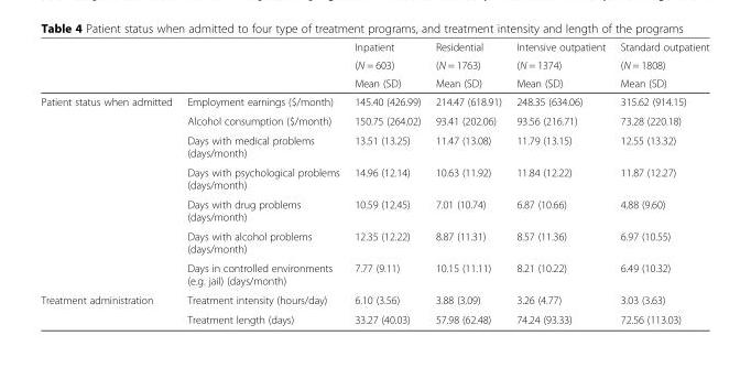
<table><thead><tr><td rowspan="3"></td><td rowspan="3"></td><td rowspan="3">Inpatient (N = 603) Mean (SD)</td><td rowspan="3">Residential (N = 1763) Mean (SD)</td><td rowspan="3">Intensive outpatient (N = 1374) Mean (SD)</td><td rowspan="3">Standard outpatient (N = 1808) Mean (SD)</td></tr><tr></tr><tr></tr></thead><tbody><tr><td rowspan="7">Patient status when admitted</td><td>Employment earnings ($/month)</td><td>145.40 (426.99)</td><td>214.47 (618.91)</td><td>248.35 (634.06)</td><td>315.62 (914.15)</td></tr><tr><td>Alcohol consumption ($/month)</td><td>150.75 (264.02)</td><td>93.41 (202.06)</td><td>93.56 (216.71)</td><td>73.28 (220.18)</td></tr><tr><td>Days with medical problems (days/month)</td><td>13.51 (13.25)</td><td>11.47 (13.08)</td><td>11.79 (13.15)</td><td>12.55 (13.32)</td></tr><tr><td>Days with psychological problems (days/month)</td><td>14.96 (12.14)</td><td>10.63 (11.92)</td><td>11.84 (12.22)</td><td>11.87 (12.27)</td></tr><tr><td>Days with drug problems (days/month)</td><td>10.59 (12.45)</td><td>7.01 (10.74)</td><td>6.87 (10.66)</td><td>4.88 (9.60)</td></tr><tr><td>Days with alcohol problems (days/month)</td><td>12.35 (12.22)</td><td>8.87 (11.31)</td><td>8.57 (11.36)</td><td>6.97 (10.55)</td></tr><tr><td>Days in controlled environments (e.g. jail) (days/month)</td><td>7.77 (9.11)</td><td>10.15 (11.11)</td><td>8.21 (10.22)</td><td>6.49 (10.32)</td></tr><tr><td rowspan="2">Treatment administration</td><td>Treatment intensity (hours/day)</td><td>6.10 (3.56)</td><td>3.88 (3.09)</td><td>3.26 (4.77)</td><td>3.03 (3.63)</td></tr><tr><td>Treatment length (days)</td><td>33.27 (40.03)</td><td>57.98 (62.48)</td><td>74.24 (93.33)</td><td>72.56 (113.03)</td></tr></tbody></table>